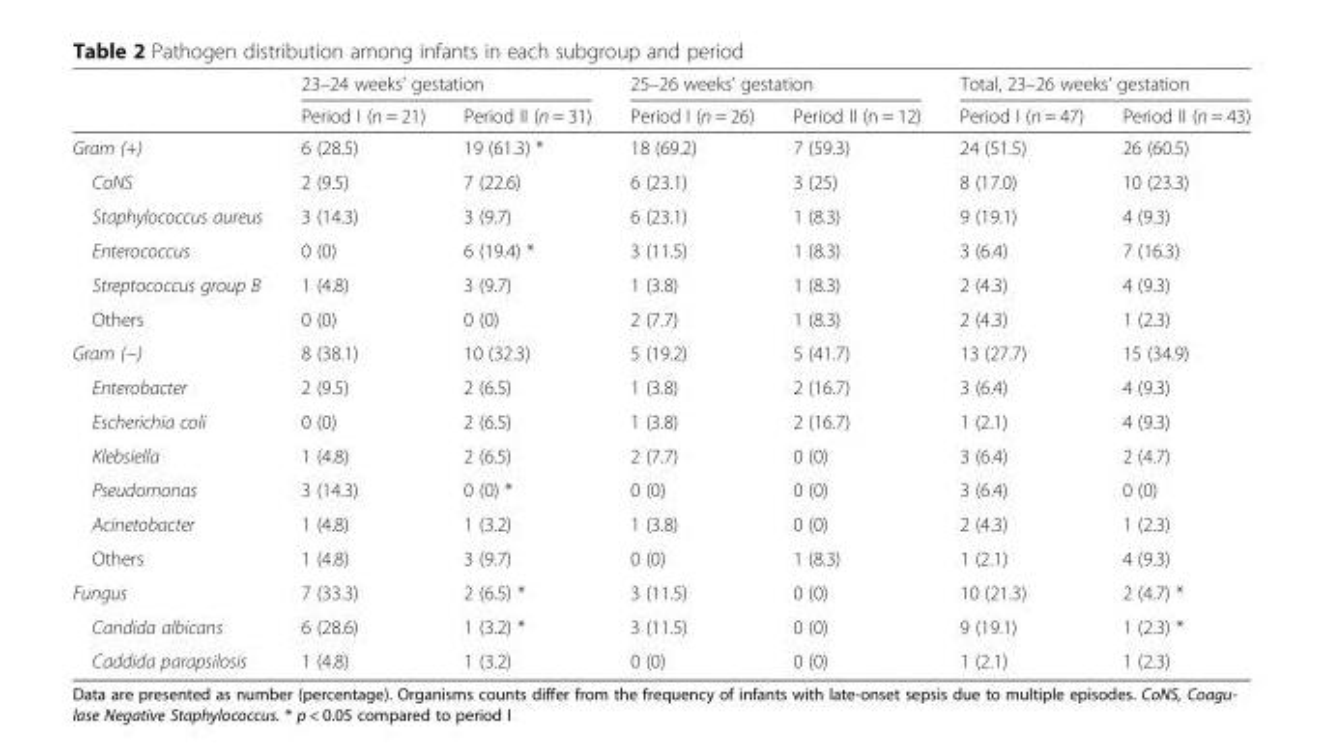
<table><thead><tr><td rowspan="2"></td><td colspan="2">23–24 weeks’ gestation</td><td colspan="2">25–26 weeks’ gestation</td><td colspan="2">Total, 23–26 weeks’ gestation</td></tr><tr><td>Period I (n = 21)</td><td>Period II (n = 31)</td><td>Period I (n = 26)</td><td>Period II (n = 12)</td><td>Period I (n = 47)</td><td>Period II (n = 43)</td></tr></thead><tbody><tr><td>Gram (+)</td><td>6 (28.5)</td><td>19 (61.3) *</td><td>18 (69.2)</td><td>7 (59.3)</td><td>24 (51.5)</td><td>26 (60.5)</td></tr><tr><td>CoNS</td><td>2 (9.5)</td><td>7 (22.6)</td><td>6 (23.1)</td><td>3 (25)</td><td>8 (17.0)</td><td>10 (23.3)</td></tr><tr><td>Staphylococcus aureus</td><td>3 (14.3)</td><td>3 (9.7)</td><td>6 (23.1)</td><td>1 (8.3)</td><td>9 (19.1)</td><td>4 (9.3)</td></tr><tr><td>Enterococcus</td><td>0 (0)</td><td>6 (19.4) *</td><td>3 (11.5)</td><td>1 (8.3)</td><td>3 (6.4)</td><td>7 (16.3)</td></tr><tr><td>Streptococcus group B</td><td>1 (4.8)</td><td>3 (9.7)</td><td>1 (3.8)</td><td>1 (8.3)</td><td>2 (4.3)</td><td>4 (9.3)</td></tr><tr><td>Others</td><td>0 (0)</td><td>0 (0)</td><td>2 (7.7)</td><td>1 (8.3)</td><td>2 (4.3)</td><td>1 (2.3)</td></tr><tr><td>Gram (−)</td><td>8 (38.1)</td><td>10 (32.3)</td><td>5 (19.2)</td><td>5 (41.7)</td><td>13 (27.7)</td><td>15 (34.9)</td></tr><tr><td>Enterobacter</td><td>2 (9.5)</td><td>2 (6.5)</td><td>1 (3.8)</td><td>2 (16.7)</td><td>3 (6.4)</td><td>4 (9.3)</td></tr><tr><td>Escherichia coli</td><td>0 (0)</td><td>2 (6.5)</td><td>1 (3.8)</td><td>2 (16.7)</td><td>1 (2.1)</td><td>4 (9.3)</td></tr><tr><td>Klebsiella</td><td>1 (4.8)</td><td>2 (6.5)</td><td>2 (7.7)</td><td>0 (0)</td><td>3 (6.4)</td><td>2 (4.7)</td></tr><tr><td>Pseudomonas</td><td>3 (14.3)</td><td>0 (0) *</td><td>0 (0)</td><td>0 (0)</td><td>3 (6.4)</td><td>0 (0)</td></tr><tr><td>Acinetobacter</td><td>1 (4.8)</td><td>1 (3.2)</td><td>1 (3.8)</td><td>0 (0)</td><td>2 (4.3)</td><td>1 (2.3)</td></tr><tr><td>Others</td><td>1 (4.8)</td><td>3 (9.7)</td><td>0 (0)</td><td>1 (8.3)</td><td>1 (2.1)</td><td>4 (9.3)</td></tr><tr><td>Fungus</td><td>7 (33.3)</td><td>2 (6.5) *</td><td>3 (11.5)</td><td>0 (0)</td><td>10 (21.3)</td><td>2 (4.7) *</td></tr><tr><td>Candida albicans</td><td>6 (28.6)</td><td>1 (3.2) *</td><td>3 (11.5)</td><td>0 (0)</td><td>9 (19.1)</td><td>1 (2.3) *</td></tr><tr><td>Caddida parapsilosis</td><td>1 (4.8)</td><td>1 (3.2)</td><td>0 (0)</td><td>0 (0)</td><td>1 (2.1)</td><td>1 (2.3)</td></tr></tbody></table>